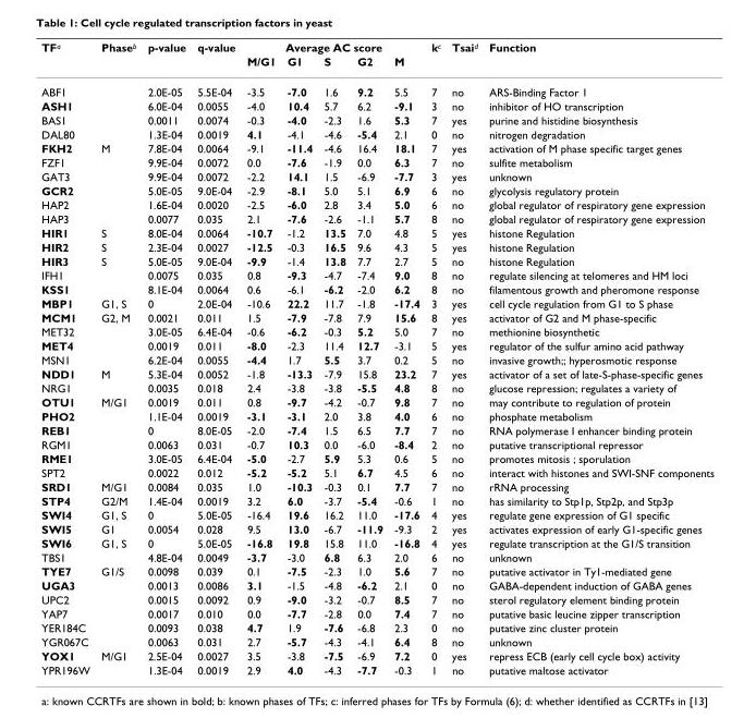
<table><thead><tr><td rowspan="2">TF<sup>a</sup></td><td rowspan="2">Phase<sup>b</sup></td><td rowspan="2">p-value</td><td rowspan="2">q-value</td><td colspan="5">Average AC score</td><td rowspan="2">k<sup>c</sup></td><td rowspan="2">Tsai<sup>d</sup></td><td rowspan="2">Function</td></tr><tr><td>M/G1</td><td>G1</td><td>S</td><td>G2</td><td>M</td></tr></thead><tbody><tr><td>ABF1</td><td></td><td>2.0E-05</td><td>5.5E-04</td><td>-3.5</td><td>-7.0</td><td>1.6</td><td>9.2</td><td>5.5</td><td>7</td><td>no</td><td>ARS-Binding Factor 1</td></tr><tr><td>ASH1</td><td></td><td>6.0E-04</td><td>0.0055</td><td>-4.0</td><td>10.4</td><td>5.7</td><td>6.2</td><td>-9.1</td><td>3</td><td>no</td><td>inhibitor of HO transcription</td></tr><tr><td>BAS1</td><td></td><td>0.0011</td><td>0.0074</td><td>-0.3</td><td>-4.0</td><td>-2.3</td><td>1.6</td><td>5.3</td><td>7</td><td>yes</td><td>purine and histidine biosynthesis</td></tr><tr><td>DAL80</td><td></td><td>1.3E-04</td><td>0.0019</td><td>4.1</td><td>-4.1</td><td>-4.6</td><td>-5.4</td><td>2.1</td><td>0</td><td>no</td><td>nitrogen degradation</td></tr><tr><td>FKH2</td><td>M</td><td>7.8E-04</td><td>0.0064</td><td>-9.1</td><td>-11.4</td><td>-4.6</td><td>16.4</td><td>18.1</td><td>7</td><td>yes</td><td>activation of M phase specific target genes</td></tr><tr><td>FZF1</td><td></td><td>9.9E-04</td><td>0.0072</td><td>0.0</td><td>-7.6</td><td>-1.9</td><td>0.0</td><td>6.3</td><td>7</td><td>no</td><td>sulfite metabolism</td></tr><tr><td>GAT3</td><td></td><td>9.9E-04</td><td>0.0072</td><td>-2.2</td><td>14.1</td><td>1.5</td><td>-6.9</td><td>-7.7</td><td>3</td><td>yes</td><td>unknown</td></tr><tr><td>GCR2</td><td></td><td>5.0E-05</td><td>9.0E-04</td><td>-2.9</td><td>-8.1</td><td>5.0</td><td>5.1</td><td>6.9</td><td>6</td><td>no</td><td>glycolysis regulatory protein</td></tr><tr><td>HAP2</td><td></td><td>1.6E-04</td><td>0.0020</td><td>-2.5</td><td>-6.0</td><td>2.8</td><td>3.4</td><td>5.0</td><td>6</td><td>no</td><td>global regulator of respiratory gene expression</td></tr><tr><td>HAP3</td><td></td><td>0.0077</td><td>0.035</td><td>2.1</td><td>-7.6</td><td>-2.6</td><td>-1.1</td><td>5.7</td><td>8</td><td>no</td><td>global regulator of respiratory gene expression</td></tr><tr><td>HIR1</td><td>S</td><td>8.0E-04</td><td>0.0064</td><td>-10.7</td><td>-1.2</td><td>13.5</td><td>7.0</td><td>4.8</td><td>5</td><td>yes</td><td>histone Regulation</td></tr><tr><td>HIR2</td><td>S</td><td>2.3E-04</td><td>0.0027</td><td>-12.5</td><td>-0.3</td><td>16.5</td><td>9.6</td><td>4.3</td><td>5</td><td>yes</td><td>histone Regulation</td></tr><tr><td>HIR3</td><td>S</td><td>5.0E-05</td><td>9.0E-04</td><td>-9.9</td><td>-1.4</td><td>13.8</td><td>7.7</td><td>2.7</td><td>5</td><td>no</td><td>histone Regulation</td></tr><tr><td>IFH1</td><td></td><td>0.0075</td><td>0.035</td><td>0.8</td><td>-9.3</td><td>-4.7</td><td>-7.4</td><td>9.0</td><td>8</td><td>no</td><td>regulate silencing at telomeres and HM loci</td></tr><tr><td>KSS1</td><td></td><td>8.1E-04</td><td>0.0064</td><td>0.6</td><td>-6.1</td><td>-6.2</td><td>-2.0</td><td>6.2</td><td>8</td><td>no</td><td>filamentous growth and pheromone response</td></tr><tr><td>MBP1</td><td>G1, S</td><td>0</td><td>2.0E-04</td><td>-10.6</td><td>22.2</td><td>11.7</td><td>-1.8</td><td>-17.4</td><td>3</td><td>yes</td><td>cell cycle regulation from G1 to S phase</td></tr><tr><td>MCM1</td><td>G2, M</td><td>0.0021</td><td>0.011</td><td>1.5</td><td>-7.9</td><td>-7.8</td><td>7.9</td><td>15.6</td><td>8</td><td>yes</td><td>activator of G2 and M phase-specific</td></tr><tr><td>MET32</td><td></td><td>3.0E-05</td><td>6.4E-04</td><td>-0.6</td><td>-6.2</td><td>-0.3</td><td>5.2</td><td>5.0</td><td>7</td><td>no</td><td>methionine biosynthetic</td></tr><tr><td>MET4</td><td></td><td>0.0019</td><td>0.011</td><td>-8.0</td><td>-2.3</td><td>11.4</td><td>12.7</td><td>-3.1</td><td>5</td><td>yes</td><td>regulator of the sulfur amino acid pathway</td></tr><tr><td>MSN1</td><td></td><td>6.2E-04</td><td>0.0055</td><td>-4.4</td><td>1.7</td><td>5.5</td><td>3.7</td><td>0.2</td><td>5</td><td>no</td><td>invasive growth;; hyperosmotic response</td></tr><tr><td>NDD1</td><td>M</td><td>5.3E-04</td><td>0.0052</td><td>-1.8</td><td>-13.3</td><td>-7.9</td><td>15.8</td><td>23.2</td><td>7</td><td>yes</td><td>activator of a set of late-S-phase-specific genes</td></tr><tr><td>NRG1</td><td></td><td>0.0035</td><td>0.018</td><td>2.4</td><td>-3.8</td><td>-3.8</td><td>-5.5</td><td>4.8</td><td>8</td><td>no</td><td>glucose repression; regulates a variety of</td></tr><tr><td>OTU1</td><td>M/G1</td><td>0.0019</td><td>0.011</td><td>0.8</td><td>-9.7</td><td>-4.2</td><td>-0.7</td><td>9.8</td><td>7</td><td>no</td><td>may contribute to regulation of protein</td></tr><tr><td>PHO2</td><td></td><td>1.1E-04</td><td>0.0019</td><td>-3.1</td><td>-3.1</td><td>2.0</td><td>3.8</td><td>4.0</td><td>6</td><td>no</td><td>phosphate metabolism</td></tr><tr><td>REB1</td><td></td><td>0</td><td>8.0E-05</td><td>-2.0</td><td>-7.4</td><td>1.5</td><td>6.5</td><td>7.7</td><td>7</td><td>no</td><td>RNA polymerase I enhancer binding protein</td></tr><tr><td>RGM1</td><td></td><td>0.0063</td><td>0.031</td><td>-0.7</td><td>10.3</td><td>0.0</td><td>-6.0</td><td>-8.4</td><td>2</td><td>no</td><td>putative transcriptional repressor</td></tr><tr><td>RME1</td><td></td><td>3.0E-05</td><td>6.4E-04</td><td>-5.0</td><td>-2.7</td><td>5.9</td><td>5.3</td><td>0.6</td><td>5</td><td>no</td><td>promotes mitosis ; sporulation</td></tr><tr><td>SPT2</td><td></td><td>0.0022</td><td>0.012</td><td>-5.2</td><td>-5.2</td><td>5.1</td><td>6.7</td><td>4.5</td><td>6</td><td>no</td><td>interact with histones and SWI-SNF components</td></tr><tr><td>SRD1</td><td>M/G1</td><td>0.0084</td><td>0.035</td><td>1.0</td><td>-10.3</td><td>-0.3</td><td>0.1</td><td>7.7</td><td>7</td><td>no</td><td>rRNA processing</td></tr><tr><td>STP4</td><td>G2/M</td><td>1.4E-04</td><td>0.0019</td><td>3.2</td><td>6.0</td><td>-3.7</td><td>-5.4</td><td>-0.6</td><td>1</td><td>no</td><td>has similarity to Stp1p, Stp2p, and Stp3p</td></tr><tr><td>SWI4</td><td>G1, S</td><td>0</td><td>5.0E-05</td><td>-16.4</td><td>19.6</td><td>16.2</td><td>11.0</td><td>-17.6</td><td>4</td><td>yes</td><td>regulate gene expression of G1 specific</td></tr><tr><td>SWI5</td><td>G1</td><td>0.0054</td><td>0.028</td><td>9.5</td><td>13.0</td><td>-6.7</td><td>-11.9</td><td>-9.3</td><td>2</td><td>yes</td><td>activates expression of early G1-specific genes</td></tr><tr><td>SWI6</td><td>G1, S</td><td>0</td><td>5.0E-05</td><td>-16.8</td><td>19.8</td><td>15.8</td><td>11.0</td><td>-16.8</td><td>4</td><td>yes</td><td>regulate transcription at the G1/S transition</td></tr><tr><td>TBS1</td><td></td><td>4.8E-04</td><td>0.0049</td><td>-3.7</td><td>-3.0</td><td>6.8</td><td>6.3</td><td>2.0</td><td>6</td><td>no</td><td>unknown</td></tr><tr><td>TYE7</td><td>G1/S</td><td>0.0098</td><td>0.039</td><td>0.1</td><td>-7.5</td><td>-2.3</td><td>1.0</td><td>5.6</td><td>7</td><td>no</td><td>putative activator in Ty1-mediated gene</td></tr><tr><td>UGA3</td><td></td><td>0.0013</td><td>0.0086</td><td>3.1</td><td>-1.5</td><td>-4.8</td><td>-6.2</td><td>2.1</td><td>0</td><td>no</td><td>GABA-dependent induction of GABA genes</td></tr><tr><td>UPC2</td><td></td><td>0.0015</td><td>0.0092</td><td>0.9</td><td>-9.0</td><td>-3.2</td><td>-0.7</td><td>8.5</td><td>7</td><td>no</td><td>sterol regulatory element binding protein</td></tr><tr><td>YAP7</td><td></td><td>0.0017</td><td>0.010</td><td>0.0</td><td>-7.7</td><td>-2.8</td><td>0.0</td><td>7.4</td><td>7</td><td>no</td><td>putative basic leucine zipper transcription</td></tr><tr><td>YER184C</td><td></td><td>0.0093</td><td>0.038</td><td>4.7</td><td>1.9</td><td>-7.6</td><td>-6.8</td><td>2.3</td><td>0</td><td>no</td><td>putative zinc cluster protein</td></tr><tr><td>YGR067C</td><td></td><td>0.0063</td><td>0.031</td><td>2.7</td><td>-5.7</td><td>-4.3</td><td>-4.1</td><td>6.4</td><td>8</td><td>no</td><td>unknown</td></tr><tr><td>YOX1</td><td>M/G1</td><td>2.5E-04</td><td>0.0027</td><td>3.5</td><td>-3.8</td><td>-7.5</td><td>-6.9</td><td>7.2</td><td>0</td><td>yes</td><td>repress ECB (early cell cycle box) activity</td></tr><tr><td>YPR196W</td><td></td><td>1.3E-04</td><td>0.0019</td><td>2.9</td><td>4.0</td><td>-4.3</td><td>-7.7</td><td>-0.3</td><td>1</td><td>no</td><td>putative maltose activator</td></tr></tbody></table>